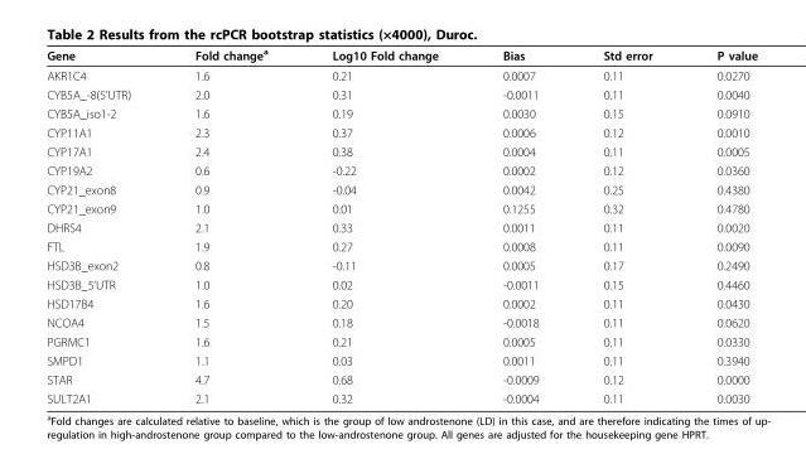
<table><thead><tr><td>Gene</td><td>Fold change<sup>a</sup></td><td>Log10 Fold change</td><td>Bias</td><td>Std error</td><td>P value</td></tr></thead><tbody><tr><td>AKR1C4</td><td>1.6</td><td>0.21</td><td>0.0007</td><td>0.11</td><td>0.0270</td></tr><tr><td>CYB5A_-8(5’UTR)</td><td>2.0</td><td>0.31</td><td>-0.0011</td><td>0.11</td><td>0.0040</td></tr><tr><td>CYB5A_iso1-2</td><td>1.6</td><td>0.19</td><td>0.0030</td><td>0.15</td><td>0.0910</td></tr><tr><td>CYP11A1</td><td>2.3</td><td>0.37</td><td>0.0006</td><td>0.12</td><td>0.0010</td></tr><tr><td>CYP17A1</td><td>2.4</td><td>0.38</td><td>0.0004</td><td>0.11</td><td>0.0005</td></tr><tr><td>CYP19A2</td><td>0.6</td><td>-0.22</td><td>0.0002</td><td>0.12</td><td>0.0360</td></tr><tr><td>CYP21_exon8</td><td>0.9</td><td>-0.04</td><td>0.0042</td><td>0.25</td><td>0.4380</td></tr><tr><td>CYP21_exon9</td><td>1.0</td><td>0.01</td><td>0.1255</td><td>0.32</td><td>0.4780</td></tr><tr><td>DHRS4</td><td>2.1</td><td>0.33</td><td>0.0011</td><td>0.11</td><td>0.0020</td></tr><tr><td>FTL</td><td>1.9</td><td>0.27</td><td>0.0008</td><td>0.11</td><td>0.0090</td></tr><tr><td>HSD3B_exon2</td><td>0.8</td><td>-0.11</td><td>0.0005</td><td>0.17</td><td>0.2490</td></tr><tr><td>HSD3B_5’UTR</td><td>1.0</td><td>0.02</td><td>-0.0011</td><td>0.15</td><td>0.4460</td></tr><tr><td>HSD17B4</td><td>1.6</td><td>0.20</td><td>0.0002</td><td>0.11</td><td>0.0430</td></tr><tr><td>NCOA4</td><td>1.5</td><td>0.18</td><td>-0.0018</td><td>0.11</td><td>0.0620</td></tr><tr><td>PGRMC1</td><td>1.6</td><td>0.21</td><td>0.0005</td><td>0.11</td><td>0.0330</td></tr><tr><td>SMPD1</td><td>1.1</td><td>0.03</td><td>0.0011</td><td>0.11</td><td>0.3940</td></tr><tr><td>STAR</td><td>4.7</td><td>0.68</td><td>-0.0009</td><td>0.12</td><td>0.0000</td></tr><tr><td>SULT2A1</td><td>2.1</td><td>0.32</td><td>-0.0004</td><td>0.11</td><td>0.0030</td></tr></tbody></table>